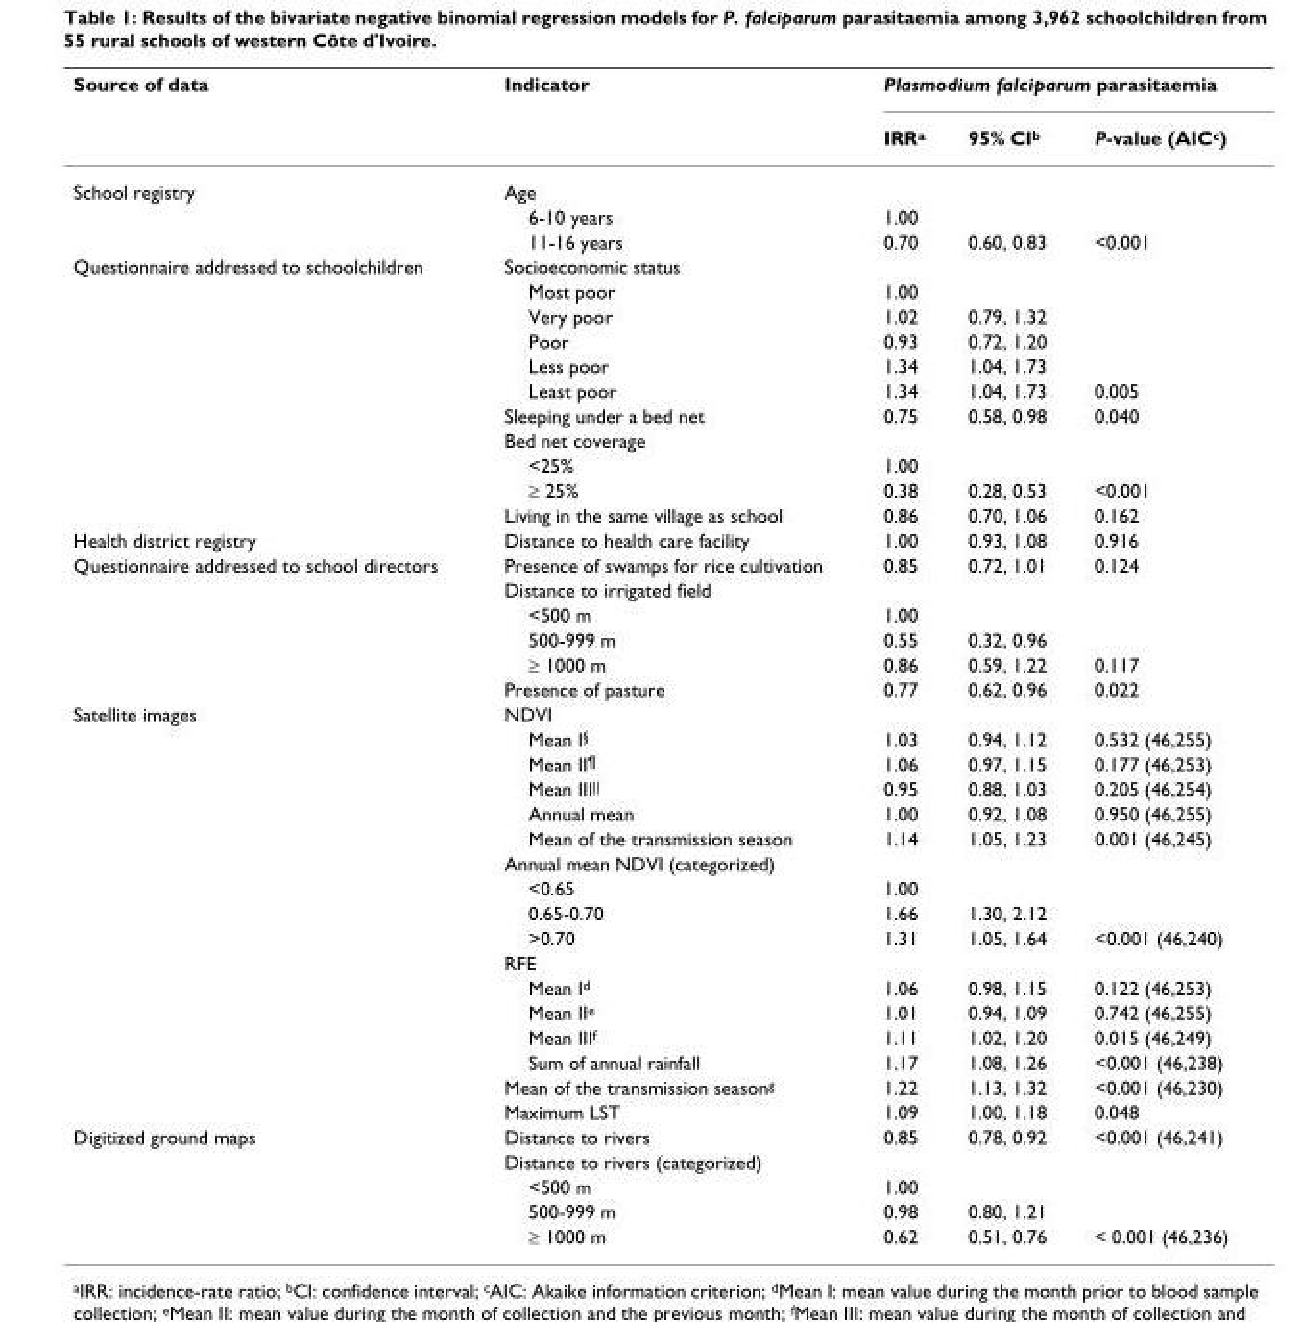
<table><thead><tr><td rowspan="2">Source of data</td><td rowspan="2">Indicator</td><td colspan="3">Plasmodium falciparum parasitaemia</td></tr><tr><td>IRR<sup>a</sup></td><td>95% CI<sup>b</sup></td><td>P-value (AIC<sup>c</sup>)</td></tr></thead><tbody><tr><td rowspan="3">School registry</td><td>Age</td><td></td><td></td><td></td></tr><tr><td>6-10 years</td><td>1.00</td><td></td><td></td></tr><tr><td>11-16 years</td><td>0.70</td><td>0.60, 0.83</td><td>&lt;0.001</td></tr><tr><td rowspan="11">Questionnaire addressed to schoolchildren</td><td>Socioeconomic status</td><td></td><td></td><td></td></tr><tr><td>Most poor</td><td>1.00</td><td></td><td></td></tr><tr><td>Very poor</td><td>1.02</td><td>0.79, 1.32</td><td></td></tr><tr><td>Poor</td><td>0.93</td><td>0.72, 1.20</td><td></td></tr><tr><td>Less poor</td><td>1.34</td><td>1.04, 1.73</td><td></td></tr><tr><td>Least poor</td><td>1.34</td><td>1.04, 1.73</td><td>0.005</td></tr><tr><td>Sleeping under a bed net</td><td>0.75</td><td>0.58, 0.98</td><td>0.040</td></tr><tr><td>Bed net coverage</td><td></td><td></td><td></td></tr><tr><td>&lt;25%</td><td>1.00</td><td></td><td></td></tr><tr><td>≥ 25%</td><td>0.38</td><td>0.28, 0.53</td><td>&lt;0.001</td></tr><tr><td>Living in the same village as school</td><td>0.86</td><td>0.70, 1.06</td><td>0.162</td></tr><tr><td>Health district registry</td><td>Distance to health care facility</td><td>1.00</td><td>0.93, 1.08</td><td>0.916</td></tr><tr><td rowspan="6">Questionnaire addressed to school directors</td><td>Presence of swamps for rice cultivation</td><td>0.85</td><td>0.72, 1.01</td><td>0.124</td></tr><tr><td>Distance to irrigated field</td><td></td><td></td><td></td></tr><tr><td>&lt;500 m</td><td>1.00</td><td></td><td></td></tr><tr><td>500-999 m</td><td>0.55</td><td>0.32, 0.96</td><td></td></tr><tr><td>≥ 1000 m</td><td>0.86</td><td>0.59, 1.22</td><td>0.117</td></tr><tr><td>Presence of pasture</td><td>0.77</td><td>0.62, 0.96</td><td>0.022</td></tr><tr><td rowspan="17">Satellite images</td><td>NDVI</td><td></td><td></td><td></td></tr><tr><td>Mean I<sup>§</sup></td><td>1.03</td><td>0.94, 1.12</td><td>0.532 (46,255)</td></tr><tr><td>Mean II<sup>¶</sup></td><td>1.06</td><td>0.97, 1.15</td><td>0.177 (46,253)</td></tr><tr><td>Mean III<sup>||</sup></td><td>0.95</td><td>0.88, 1.03</td><td>0.205 (46,254)</td></tr><tr><td>Annual mean</td><td>1.00</td><td>0.92, 1.08</td><td>0.950 (46,255)</td></tr><tr><td>Mean of the transmission season</td><td>1.14</td><td>1.05, 1.23</td><td>0.001 (46,245)</td></tr><tr><td>Annual mean NDVI (categorized)</td><td></td><td></td><td></td></tr><tr><td>&lt;0.65</td><td>1.00</td><td></td><td></td></tr><tr><td>0.65-0.70</td><td>1.66</td><td>1.30, 2.12</td><td></td></tr><tr><td>&gt;0.70</td><td>1.31</td><td>1.05, 1.64</td><td>&lt;0.001 (46,240)</td></tr><tr><td>RFE</td><td></td><td></td><td></td></tr><tr><td>Mean I<sup>d</sup></td><td>1.06</td><td>0.98, 1.15</td><td>0.122 (46,253)</td></tr><tr><td>Mean II<sup>e</sup></td><td>1.01</td><td>0.94, 1.09</td><td>0.742 (46,255)</td></tr><tr><td>Mean III<sup>f</sup></td><td>1.11</td><td>1.02, 1.20</td><td>0.015 (46,249)</td></tr><tr><td>Sum of annual rainfall</td><td>1.17</td><td>1.08, 1.26</td><td>&lt;0.001 (46,238)</td></tr><tr><td>Mean of the transmission season<sup>g</sup></td><td>1.22</td><td>1.13, 1.32</td><td>&lt;0.001 (46,230)</td></tr><tr><td>Maximum LST</td><td>1.09</td><td>1.00, 1.18</td><td>0.048</td></tr><tr><td rowspan="5">Digitized ground maps</td><td>Distance to rivers</td><td>0.85</td><td>0.78, 0.92</td><td>&lt;0.001 (46,241)</td></tr><tr><td>Distance to rivers (categorized)</td><td></td><td></td><td></td></tr><tr><td>&lt;500 m</td><td>1.00</td><td></td><td></td></tr><tr><td>500-999 m</td><td>0.98</td><td>0.80, 1.21</td><td></td></tr><tr><td>≥ 1000 m</td><td>0.62</td><td>0.51, 0.76</td><td>&lt; 0.001 (46,236)</td></tr></tbody></table>